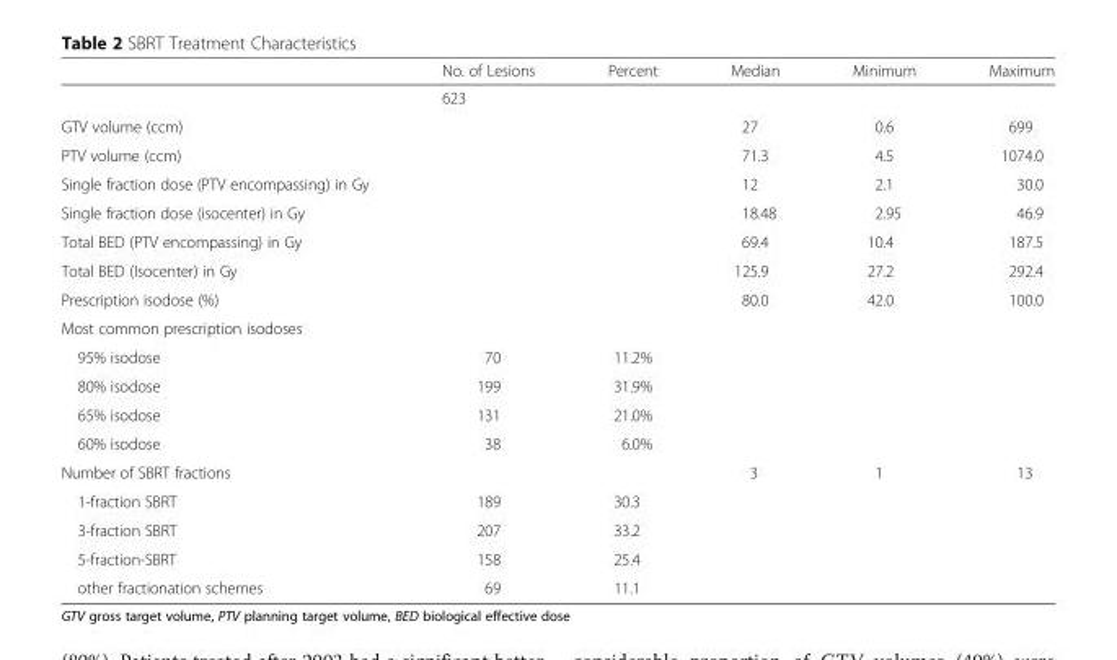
<table><thead><tr><td></td><td>No. of Lesions</td><td>Percent</td><td>Median</td><td>Minimum</td><td>Maximum</td></tr></thead><tbody><tr><td></td><td>623</td><td></td><td></td><td></td><td></td></tr><tr><td>GTV volume (ccm)</td><td></td><td></td><td>27</td><td>0.6</td><td>699</td></tr><tr><td>PTV volume (ccm)</td><td></td><td></td><td>71.3</td><td>4.5</td><td>1074.0</td></tr><tr><td>Single fraction dose (PTV encompassing) in Gy</td><td></td><td></td><td>12</td><td>2.1</td><td>30.0</td></tr><tr><td>Single fraction dose (isocenter) in Gy</td><td></td><td></td><td>18.48</td><td>2.95</td><td>46.9</td></tr><tr><td>Total BED (PTV encompassing) in Gy</td><td></td><td></td><td>69.4</td><td>10.4</td><td>187.5</td></tr><tr><td>Total BED (Isocenter) in Gy</td><td></td><td></td><td>125.9</td><td>27.2</td><td>292.4</td></tr><tr><td>Prescription isodose (%)</td><td></td><td></td><td>80.0</td><td>42.0</td><td>100.0</td></tr><tr><td colspan="6">Most common prescription isodoses</td></tr><tr><td>95% isodose</td><td>70</td><td>11.2%</td><td></td><td></td><td></td></tr><tr><td>80% isodose</td><td>199</td><td>31.9%</td><td></td><td></td><td></td></tr><tr><td>65% isodose</td><td>131</td><td>21.0%</td><td></td><td></td><td></td></tr><tr><td>60% isodose</td><td>38</td><td>6.0%</td><td></td><td></td><td></td></tr><tr><td>Number of SBRT fractions</td><td></td><td></td><td>3</td><td>1</td><td>13</td></tr><tr><td>1-fraction SBRT</td><td>189</td><td>30.3</td><td></td><td></td><td></td></tr><tr><td>3-fraction SBRT</td><td>207</td><td>33.2</td><td></td><td></td><td></td></tr><tr><td>5-fraction-SBRT</td><td>158</td><td>25.4</td><td></td><td></td><td></td></tr><tr><td>other fractionation schemes</td><td>69</td><td>11.1</td><td></td><td></td><td></td></tr></tbody></table>